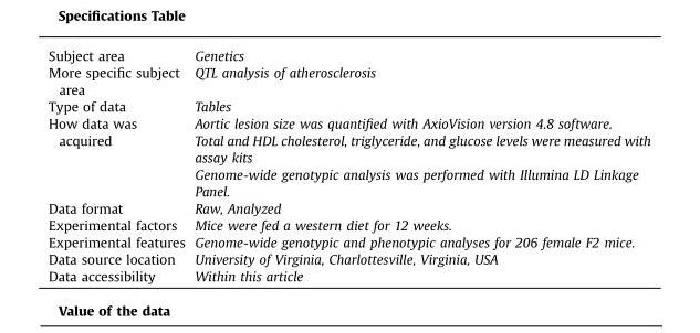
<table><tbody><tr><td>Subject area</td><td>Genetics</td></tr><tr><td>More specific subject area</td><td>QTL analysis of atherosclerosis</td></tr><tr><td>Type of data</td><td>Tables</td></tr><tr><td rowspan="3">How data was acquired</td><td>Aortic lesion size was quantified with AxioVision version 4.8 software.</td></tr><tr><td>Total and HDL cholesterol, triglyceride, and glucose levels were measured with assay kits</td></tr><tr><td>Genome-wide genotypic analysis was performed with Illumina LD Linkage Panel.</td></tr><tr><td>Data format</td><td>Raw, Analyzed</td></tr><tr><td>Experimental factors</td><td>Mice were fed a western diet for 12 weeks.</td></tr><tr><td>Experimental features</td><td>Genome-wide genotypic and phenotypic analyses for 206 female F2 mice.</td></tr><tr><td>Data source location</td><td>University of Virginia, Charlottesville, Virginia, USA</td></tr><tr><td>Data accessibility</td><td>Within this article</td></tr></tbody></table>